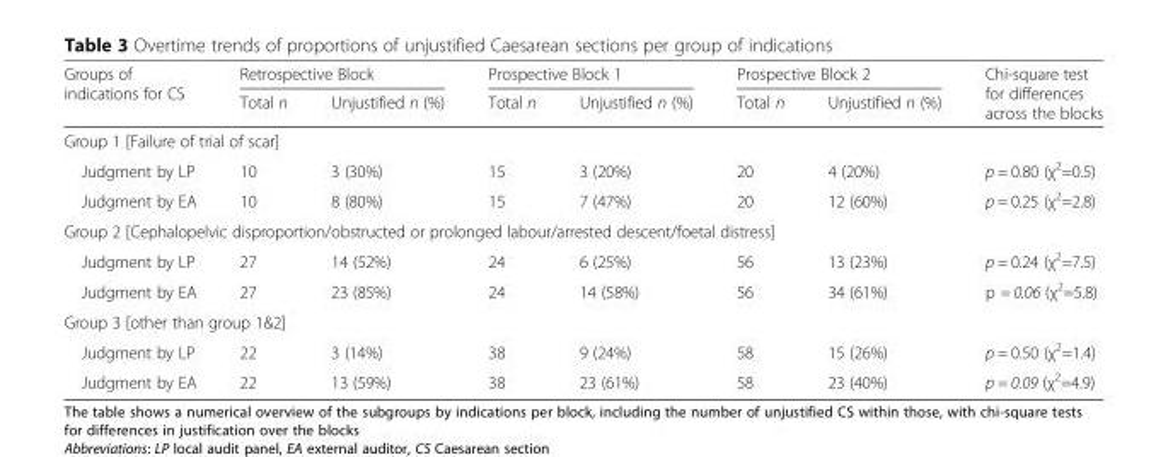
<table><thead><tr><td rowspan="2">Groups of indications for CS</td><td colspan="2">Retrospective Block</td><td colspan="2">Prospective Block 1</td><td colspan="2">Prospective Block 2</td><td rowspan="2">Chi-square test for differences across the blocks</td></tr><tr><td>Total n</td><td>Unjustified n (%)</td><td>Total n</td><td>Unjustified n (%)</td><td>Total n</td><td>Unjustified n (%)</td></tr></thead><tbody><tr><td colspan="8">Group 1 [Failure of trial of scar]</td></tr><tr><td>Judgment by LP</td><td>10</td><td>3 (30%)</td><td>15</td><td>3 (20%)</td><td>20</td><td>4 (20%)</td><td>p = 0.80 (χ<sup>2</sup>=0.5)</td></tr><tr><td>Judgment by EA</td><td>10</td><td>8 (80%)</td><td>15</td><td>7 (47%)</td><td>20</td><td>12 (60%)</td><td>p = 0.25 (χ<sup>2</sup>=2.8)</td></tr><tr><td colspan="8">Group 2 [Cephalopelvic disproportion/obstructed or prolonged labour/arrested descent/foetal distress]</td></tr><tr><td>Judgment by LP</td><td>27</td><td>14 (52%)</td><td>24</td><td>6 (25%)</td><td>56</td><td>13 (23%)</td><td>p = 0.24 (χ<sup>2</sup>=7.5)</td></tr><tr><td>Judgment by EA</td><td>27</td><td>23 (85%)</td><td>24</td><td>14 (58%)</td><td>56</td><td>34 (61%)</td><td>p = 0.06 (χ<sup>2</sup>=5.8)</td></tr><tr><td colspan="8">Group 3 [other than group 1&amp;2]</td></tr><tr><td>Judgment by LP</td><td>22</td><td>3 (14%)</td><td>38</td><td>9 (24%)</td><td>58</td><td>15 (26%)</td><td>p = 0.50 (χ<sup>2</sup>=1.4)</td></tr><tr><td>Judgment by EA</td><td>22</td><td>13 (59%)</td><td>38</td><td>23 (61%)</td><td>58</td><td>23 (40%)</td><td>p = 0.09 (χ<sup>2</sup>=4.9)</td></tr></tbody></table>